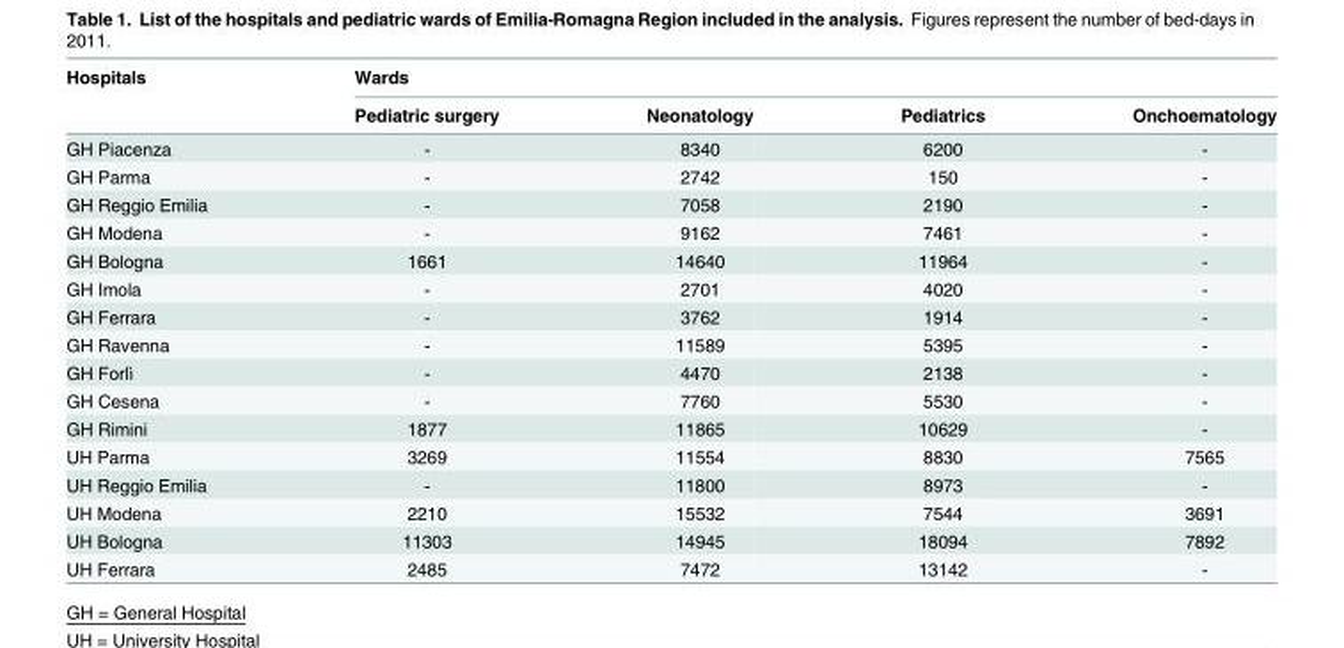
<table><thead><tr><td rowspan="2">Hospitals</td><td colspan="4">Wards</td></tr><tr><td>Pediatric surgery</td><td>Neonatology</td><td>Pediatrics</td><td>Onchoematology</td></tr></thead><tbody><tr><td>GH Piacenza</td><td>-</td><td>8340</td><td>6200</td><td>-</td></tr><tr><td>GH Parma</td><td>-</td><td>2742</td><td>150</td><td>-</td></tr><tr><td>GH Reggio Emilia</td><td>-</td><td>7058</td><td>2190</td><td>-</td></tr><tr><td>GH Modena</td><td>-</td><td>9162</td><td>7461</td><td>-</td></tr><tr><td>GH Bologna</td><td>1661</td><td>14640</td><td>11964</td><td>-</td></tr><tr><td>GH Imola</td><td>-</td><td>2701</td><td>4020</td><td>-</td></tr><tr><td>GH Ferrara</td><td>-</td><td>3762</td><td>1914</td><td>-</td></tr><tr><td>GH Ravenna</td><td>-</td><td>11589</td><td>5395</td><td>-</td></tr><tr><td>GH Forlì</td><td>-</td><td>4470</td><td>2138</td><td>-</td></tr><tr><td>GH Cesena</td><td>-</td><td>7760</td><td>5530</td><td>-</td></tr><tr><td>GH Rimini</td><td>1877</td><td>11865</td><td>10629</td><td>-</td></tr><tr><td>UH Parma</td><td>3269</td><td>11554</td><td>8830</td><td>7565</td></tr><tr><td>UH Reggio Emilia</td><td>-</td><td>11800</td><td>8973</td><td>-</td></tr><tr><td>UH Modena</td><td>2210</td><td>15532</td><td>7544</td><td>3691</td></tr><tr><td>UH Bologna</td><td>11303</td><td>14945</td><td>18094</td><td>7892</td></tr><tr><td>UH Ferrara</td><td>2485</td><td>7472</td><td>13142</td><td>-</td></tr></tbody></table>